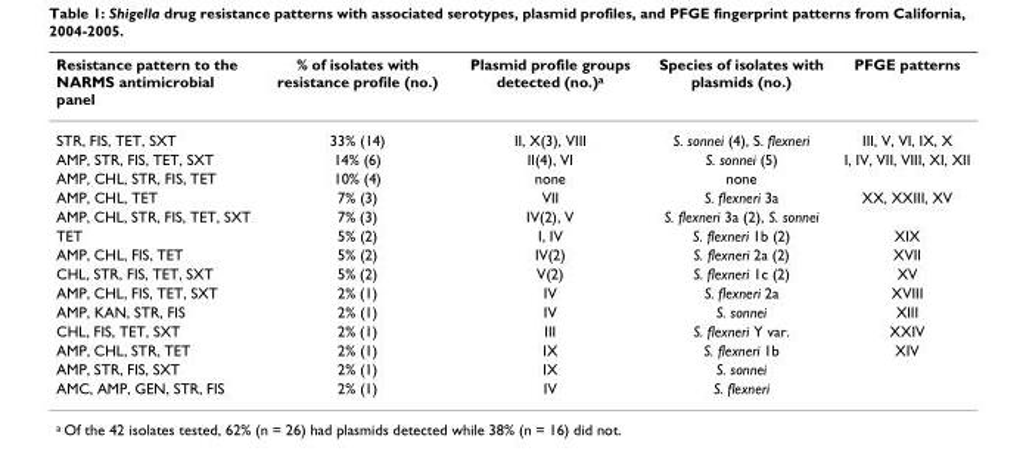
<table><thead><tr><td>Resistance pattern to the NARMS antimicrobial panel</td><td>% of isolates with resistance profile (no.)</td><td>Plasmid profile groups detected (no.)<sup>a</sup></td><td>Species of isolates with plasmids (no.)</td><td>PFGE patterns</td></tr></thead><tbody><tr><td>STR, FIS, TET, SXT</td><td>33% (14)</td><td>II, X(3), VIII</td><td>S. sonnei (4), S. flexneri</td><td>III, V, VI, IX, X</td></tr><tr><td>AMP, STR, FIS, TET, SXT</td><td>14% (6)</td><td>II(4), VI</td><td>S. sonnei (5)</td><td>I, IV, VII, VIII, XI, XII</td></tr><tr><td>AMP, CHL, STR, FIS, TET</td><td>10% (4)</td><td>none</td><td>none</td><td></td></tr><tr><td>AMP, CHL, TET</td><td>7% (3)</td><td>VII</td><td>S. flexneri 3a</td><td>XX, XXIII, XV</td></tr><tr><td>AMP, CHL, STR, FIS, TET, SXT</td><td>7% (3)</td><td>IV(2), V</td><td>S. flexneri 3a (2), S. sonnei</td><td></td></tr><tr><td>TET</td><td>5% (2)</td><td>I, IV</td><td>S. flexneri 1b (2)</td><td>XIX</td></tr><tr><td>AMP, CHL, FIS, TET</td><td>5% (2)</td><td>IV(2)</td><td>S. flexneri 2a (2)</td><td>XVII</td></tr><tr><td>CHL, STR, FIS, TET, SXT</td><td>5% (2)</td><td>V(2)</td><td>S. flexneri 1c (2)</td><td>XV</td></tr><tr><td>AMP, CHL, FIS, TET, SXT</td><td>2% (1)</td><td>IV</td><td>S. flexneri 2a</td><td>XVIII</td></tr><tr><td>AMP, KAN, STR, FIS</td><td>2% (1)</td><td>IV</td><td>S. sonnei</td><td>XIII</td></tr><tr><td>CHL, FIS, TET, SXT</td><td>2% (1)</td><td>III</td><td>S. flexneri Y var.</td><td>XXIV</td></tr><tr><td>AMP, CHL, STR, TET</td><td>2% (1)</td><td>IX</td><td>S. flexneri 1b</td><td>XIV</td></tr><tr><td>AMP, STR, FIS, SXT</td><td>2% (1)</td><td>IX</td><td>S. sonnei</td><td></td></tr><tr><td>AMC, AMP, GEN, STR, FIS</td><td>2% (1)</td><td>IV</td><td>S. flexneri</td><td></td></tr></tbody></table>